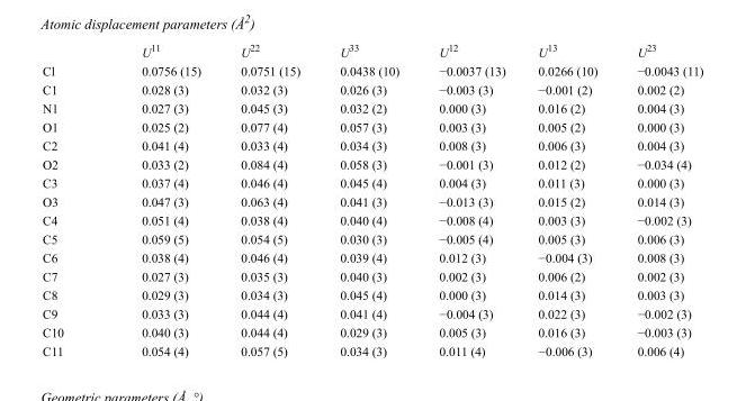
<table><thead><tr><td></td><td>U<sup>11</sup></td><td>U<sup>22</sup></td><td>U<sup>33</sup></td><td>U<sup>12</sup></td><td>U<sup>13</sup></td><td>U<sup>23</sup></td></tr></thead><tbody><tr><td>Cl</td><td>0.0756 (15)</td><td>0.0751 (15)</td><td>0.0438 (10)</td><td>−0.0037 (13)</td><td>0.0266 (10)</td><td>−0.0043 (11)</td></tr><tr><td>C1</td><td>0.028 (3)</td><td>0.032 (3)</td><td>0.026 (3)</td><td>−0.003 (3)</td><td>−0.001 (2)</td><td>0.002 (2)</td></tr><tr><td>N1</td><td>0.027 (3)</td><td>0.045 (3)</td><td>0.032 (2)</td><td>0.000 (3)</td><td>0.016 (2)</td><td>0.004 (3)</td></tr><tr><td>O1</td><td>0.025 (2)</td><td>0.077 (4)</td><td>0.057 (3)</td><td>0.003 (3)</td><td>0.005 (2)</td><td>0.000 (3)</td></tr><tr><td>C2</td><td>0.041 (4)</td><td>0.033 (4)</td><td>0.034 (3)</td><td>0.008 (3)</td><td>0.006 (3)</td><td>0.004 (3)</td></tr><tr><td>O2</td><td>0.033 (2)</td><td>0.084 (4)</td><td>0.058 (3)</td><td>−0.001 (3)</td><td>0.012 (2)</td><td>−0.034 (4)</td></tr><tr><td>C3</td><td>0.037 (4)</td><td>0.046 (4)</td><td>0.045 (4)</td><td>0.004 (3)</td><td>0.011 (3)</td><td>0.000 (3)</td></tr><tr><td>O3</td><td>0.047 (3)</td><td>0.063 (4)</td><td>0.041 (3)</td><td>−0.013 (3)</td><td>0.015 (2)</td><td>0.014 (3)</td></tr><tr><td>C4</td><td>0.051 (4)</td><td>0.038 (4)</td><td>0.040 (4)</td><td>−0.008 (4)</td><td>0.003 (3)</td><td>−0.002 (3)</td></tr><tr><td>C5</td><td>0.059 (5)</td><td>0.054 (5)</td><td>0.030 (3)</td><td>−0.005 (4)</td><td>0.005 (3)</td><td>0.006 (3)</td></tr><tr><td>C6</td><td>0.038 (4)</td><td>0.046 (4)</td><td>0.039 (4)</td><td>0.012 (3)</td><td>−0.004 (3)</td><td>0.008 (3)</td></tr><tr><td>C7</td><td>0.027 (3)</td><td>0.035 (3)</td><td>0.040 (3)</td><td>0.002 (3)</td><td>0.006 (2)</td><td>0.002 (3)</td></tr><tr><td>C8</td><td>0.029 (3)</td><td>0.034 (3)</td><td>0.045 (4)</td><td>0.000 (3)</td><td>0.014 (3)</td><td>0.003 (3)</td></tr><tr><td>C9</td><td>0.033 (3)</td><td>0.044 (4)</td><td>0.041 (4)</td><td>−0.004 (3)</td><td>0.022 (3)</td><td>−0.002 (3)</td></tr><tr><td>C10</td><td>0.040 (3)</td><td>0.044 (4)</td><td>0.029 (3)</td><td>0.005 (3)</td><td>0.016 (3)</td><td>−0.003 (3)</td></tr><tr><td>C11</td><td>0.054 (4)</td><td>0.057 (5)</td><td>0.034 (3)</td><td>0.011 (4)</td><td>−0.006 (3)</td><td>0.006 (4)</td></tr></tbody></table>